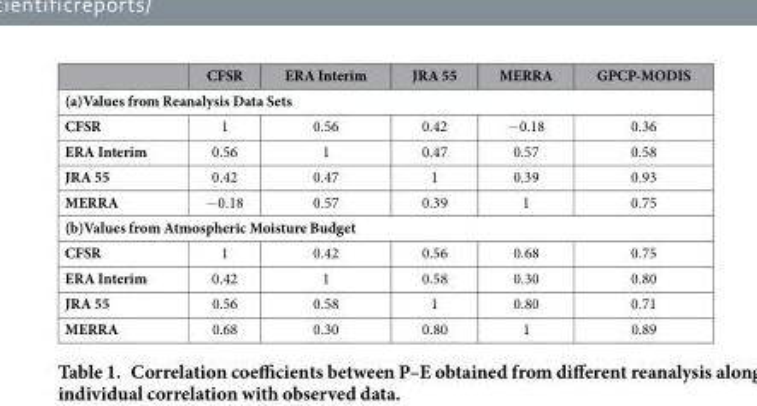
<table><thead><tr><td></td><td>CFSR</td><td>ERA Interim</td><td>JRA 55</td><td>MERRA</td><td>GPCP-MODIS</td></tr></thead><tbody><tr><td colspan="6">(a)Values from Reanalysis Data Sets</td></tr><tr><td>CFSR</td><td>1</td><td>0.56</td><td>0.42</td><td>− 0.18</td><td>0.36</td></tr><tr><td>ERA Interim</td><td>0.56</td><td>1</td><td>0.47</td><td>0.57</td><td>0.58</td></tr><tr><td>JRA 55</td><td>0.42</td><td>0.47</td><td>1</td><td>0.39</td><td>0.93</td></tr><tr><td>MERRA</td><td>− 0.18</td><td>0.57</td><td>0.39</td><td>1</td><td>0.75</td></tr><tr><td colspan="6">(b)Values from Atmospheric Moisture Budget</td></tr><tr><td>CFSR</td><td>1</td><td>0.42</td><td>0.56</td><td>0.68</td><td>0.75</td></tr><tr><td>ERA Interim</td><td>0.42</td><td>1</td><td>0.58</td><td>0.30</td><td>0.80</td></tr><tr><td>JRA 55</td><td>0.56</td><td>0.58</td><td>1</td><td>0.80</td><td>0.71</td></tr><tr><td>MERRA</td><td>0.68</td><td>0.30</td><td>0.80</td><td>1</td><td>0.89</td></tr></tbody></table>